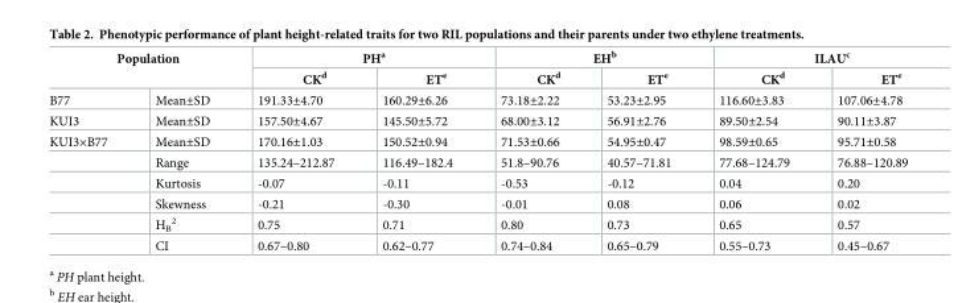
<table><thead><tr><td rowspan="2" colspan="2">Population</td><td colspan="2">PH<sup>a</sup></td><td colspan="2">EH<sup>b</sup></td><td colspan="2">ILAU<sup>c</sup></td></tr><tr><td rowspan="2">CK<sup>d</sup> 191.33±4.70</td><td rowspan="2">ET<sup>e</sup> 160.29±6.26</td><td rowspan="2">CK<sup>d</sup> 73.18±2.22</td><td rowspan="2">ET<sup>e</sup> 53.23±2.95</td><td rowspan="2">CK<sup>d</sup> 116.60±3.83</td><td rowspan="2">ET<sup>e</sup> 107.06±4.78</td></tr><tr><td>B77</td><td>Mean±SD</td></tr></thead><tbody><tr><td>KUI3</td><td>Mean±SD</td><td>157.50±4.67</td><td>145.50±5.72</td><td>68.00±3.12</td><td>56.91±2.76</td><td>89.50±2.54</td><td>90.11±3.87</td></tr><tr><td rowspan="6">KUI3×B77</td><td>Mean±SD</td><td>170.16±1.03</td><td>150.52±0.94</td><td>71.53±0.66</td><td>54.95±0.47</td><td>98.59±0.65</td><td>95.71±0.58</td></tr><tr><td>Range</td><td>135.24–212.87</td><td>116.49–182.4</td><td>51.8–90.76</td><td>40.57–71.81</td><td>77.68–124.79</td><td>76.88–120.89</td></tr><tr><td>Kurtosis</td><td>-0.07</td><td>-0.11</td><td>-0.53</td><td>-0.12</td><td>0.04</td><td>0.20</td></tr><tr><td>Skewness</td><td>-0.21</td><td>-0.30</td><td>-0.01</td><td>0.08</td><td>0.06</td><td>0.02</td></tr><tr><td>H<sub>B</sub> <sup>2</sup></td><td>0.75</td><td>0.71</td><td>0.80</td><td>0.73</td><td>0.65</td><td>0.57</td></tr><tr><td>CI</td><td>0.67–0.80</td><td>0.62–0.77</td><td>0.74–0.84</td><td>0.65–0.79</td><td>0.55–0.73</td><td>0.45–0.67</td></tr></tbody></table>